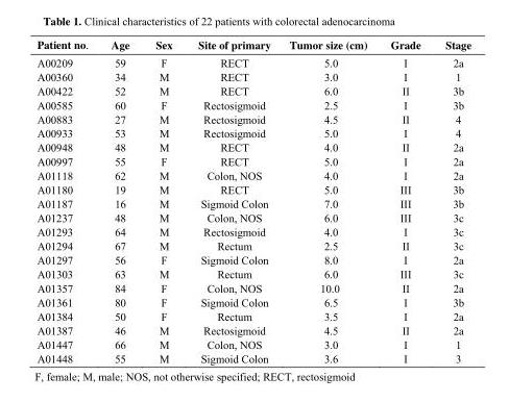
<table><thead><tr><td>Patient no.</td><td>Age</td><td>Sex</td><td>Site of primary</td><td>Tumor size (cm)</td><td>Grade</td><td>Stage</td></tr></thead><tbody><tr><td>A00209</td><td>59</td><td>F</td><td>RECT</td><td>5.0</td><td>I</td><td>2a</td></tr><tr><td>A00360</td><td>34</td><td>M</td><td>RECT</td><td>3.0</td><td>I</td><td>1</td></tr><tr><td>A00422</td><td>52</td><td>M</td><td>RECT</td><td>6.0</td><td>II</td><td>3b</td></tr><tr><td>A00585</td><td>60</td><td>F</td><td>Rectosigmoid</td><td>2.5</td><td>I</td><td>3b</td></tr><tr><td>A00883</td><td>27</td><td>M</td><td>Rectosigmoid</td><td>4.5</td><td>II</td><td>4</td></tr><tr><td>A00933</td><td>53</td><td>M</td><td>Rectosigmoid</td><td>5.0</td><td>I</td><td>4</td></tr><tr><td>A00948</td><td>48</td><td>M</td><td>RECT</td><td>4.0</td><td>II</td><td>2a</td></tr><tr><td>A00997</td><td>55</td><td>F</td><td>RECT</td><td>5.0</td><td>I</td><td>2a</td></tr><tr><td>A01118</td><td>62</td><td>M</td><td>Colon, NOS</td><td>4.0</td><td>I</td><td>2a</td></tr><tr><td>A01180</td><td>19</td><td>M</td><td>RECT</td><td>5.0</td><td>III</td><td>3b</td></tr><tr><td>A01187</td><td>16</td><td>M</td><td>Sigmoid Colon</td><td>7.0</td><td>III</td><td>3b</td></tr><tr><td>A01237</td><td>48</td><td>M</td><td>Colon, NOS</td><td>6.0</td><td>III</td><td>3c</td></tr><tr><td>A01293</td><td>64</td><td>M</td><td>Rectosigmoid</td><td>4.0</td><td>I</td><td>3c</td></tr><tr><td>A01294</td><td>67</td><td>M</td><td>Rectum</td><td>2.5</td><td>II</td><td>3c</td></tr><tr><td>A01297</td><td>56</td><td>F</td><td>Sigmoid Colon</td><td>8.0</td><td>I</td><td>2a</td></tr><tr><td>A01303</td><td>63</td><td>M</td><td>Rectum</td><td>6.0</td><td>III</td><td>3c</td></tr><tr><td>A01357</td><td>84</td><td>F</td><td>Colon, NOS</td><td>10.0</td><td>II</td><td>2a</td></tr><tr><td>A01361</td><td>80</td><td>F</td><td>Sigmoid Colon</td><td>6.5</td><td>I</td><td>3b</td></tr><tr><td>A01384</td><td>50</td><td>F</td><td>Rectum</td><td>3.5</td><td>I</td><td>2a</td></tr><tr><td>A01387</td><td>46</td><td>M</td><td>Rectosigmoid</td><td>4.5</td><td>II</td><td>2a</td></tr><tr><td>A01447</td><td>66</td><td>M</td><td>Colon, NOS</td><td>3.0</td><td>I</td><td>1</td></tr><tr><td>A01448</td><td>55</td><td>M</td><td>Sigmoid Colon</td><td>3.6</td><td>I</td><td>3</td></tr></tbody></table>